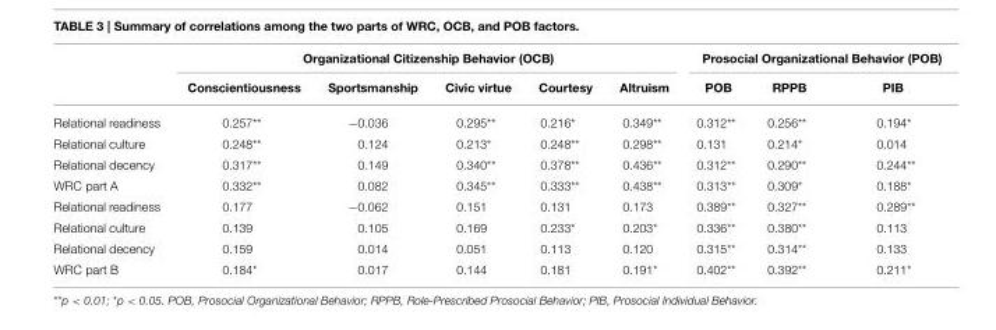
<table><thead><tr><td rowspan="2"></td><td colspan="5">Organizational Citizenship Behavior (OCB)</td><td colspan="3">Prosocial Organizational Behavior (POB)</td></tr><tr><td>Conscientiousness</td><td>Sportsmanship</td><td>Civic virtue</td><td>Courtesy</td><td>Altruism</td><td>POB</td><td>RPPB</td><td>PIB</td></tr></thead><tbody><tr><td>Relational readiness</td><td>0.257**</td><td>−0.036</td><td>0.295**</td><td>0.216*</td><td>0.349**</td><td>0.312**</td><td>0.256**</td><td>0.194*</td></tr><tr><td>Relational culture</td><td>0.248**</td><td>0.124</td><td>0.213*</td><td>0.248**</td><td>0.298**</td><td>0.131</td><td>0.214*</td><td>0.014</td></tr><tr><td>Relational decency</td><td>0.317**</td><td>0.149</td><td>0.340**</td><td>0.378**</td><td>0.436**</td><td>0.312**</td><td>0.290**</td><td>0.244**</td></tr><tr><td>WRC part A</td><td>0.332**</td><td>0.082</td><td>0.345**</td><td>0.333**</td><td>0.438**</td><td>0.313**</td><td>0.309*</td><td>0.188*</td></tr><tr><td>Relational readiness</td><td>0.177</td><td>−0.062</td><td>0.151</td><td>0.131</td><td>0.173</td><td>0.389**</td><td>0.327**</td><td>0.289**</td></tr><tr><td>Relational culture</td><td>0.139</td><td>0.105</td><td>0.169</td><td>0.233*</td><td>0.203*</td><td>0.336**</td><td>0.380**</td><td>0.113</td></tr><tr><td>Relational decency</td><td>0.159</td><td>0.014</td><td>0.051</td><td>0.113</td><td>0.120</td><td>0.315**</td><td>0.314**</td><td>0.133</td></tr><tr><td>WRC part B</td><td>0.184*</td><td>0.017</td><td>0.144</td><td>0.181</td><td>0.191*</td><td>0.402**</td><td>0.392**</td><td>0.211*</td></tr></tbody></table>